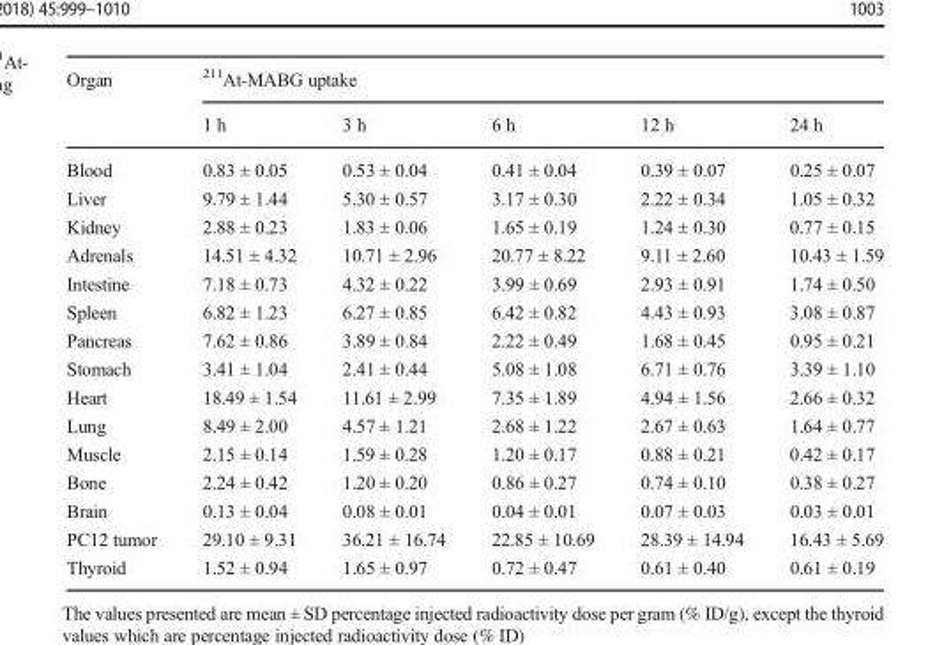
<table><thead><tr><td rowspan="2">Organ</td><td colspan="5"><sup>211</sup>At-MABG uptake</td></tr><tr><td>1 h</td><td>3 h</td><td>6 h</td><td>12 h</td><td>24 h</td></tr></thead><tbody><tr><td>Blood</td><td>0.83 ± 0.05</td><td>0.53 ± 0.04</td><td>0.41 ± 0.04</td><td>0.39 ± 0.07</td><td>0.25 ± 0.07</td></tr><tr><td>Liver</td><td>9.79 ± 1.44</td><td>5.30 ± 0.57</td><td>3.17 ± 0.30</td><td>2.22 ± 0.34</td><td>1.05 ± 0.32</td></tr><tr><td>Kidney</td><td>2.88 ± 0.23</td><td>1.83 ± 0.06</td><td>1.65 ± 0.19</td><td>1.24 ± 0.30</td><td>0.77 ± 0.15</td></tr><tr><td>Adrenals</td><td>14.51 ± 4.32</td><td>10.71 ± 2.96</td><td>20.77 ± 8.22</td><td>9.11 ± 2.60</td><td>10.43 ± 1.59</td></tr><tr><td>Intestine</td><td>7.18 ± 0.73</td><td>4.32 ± 0.22</td><td>3.99 ± 0.69</td><td>2.93 ± 0.91</td><td>1.74 ± 0.50</td></tr><tr><td>Spleen</td><td>6.82 ± 1.23</td><td>6.27 ± 0.85</td><td>6.42 ± 0.82</td><td>4.43 ± 0.93</td><td>3.08 ± 0.87</td></tr><tr><td>Pancreas</td><td>7.62 ± 0.86</td><td>3.89 ± 0.84</td><td>2.22 ± 0.49</td><td>1.68 ± 0.45</td><td>0.95 ± 0.21</td></tr><tr><td>Stomach</td><td>3.41 ± 1.04</td><td>2.41 ± 0.44</td><td>5.08 ± 1.08</td><td>6.71 ± 0.76</td><td>3.39 ± 1.10</td></tr><tr><td>Heart</td><td>18.49 ± 1.54</td><td>11.61 ± 2.99</td><td>7.35 ± 1.89</td><td>4.94 ± 1.56</td><td>2.66 ± 0.32</td></tr><tr><td>Lung</td><td>8.49 ± 2.00</td><td>4.57 ± 1.21</td><td>2.68 ± 1.22</td><td>2.67 ± 0.63</td><td>1.64 ± 0.77</td></tr><tr><td>Muscle</td><td>2.15 ± 0.14</td><td>1.59 ± 0.28</td><td>1.20 ± 0.17</td><td>0.88 ± 0.21</td><td>0.42 ± 0.17</td></tr><tr><td>Bone</td><td>2.24 ± 0.42</td><td>1.20 ± 0.20</td><td>0.86 ± 0.27</td><td>0.74 ± 0.10</td><td>0.38 ± 0.27</td></tr><tr><td>Brain</td><td>0.13 ± 0.04</td><td>0.08 ± 0.01</td><td>0.04 ± 0.01</td><td>0.07 ± 0.03</td><td>0.03 ± 0.01</td></tr><tr><td>PC12 tumor</td><td>29.10 ± 9.31</td><td>36.21 ± 16.74</td><td>22.85 ± 10.69</td><td>28.39 ± 14.94</td><td>16.43 ± 5.69</td></tr><tr><td>Thyroid</td><td>1.52 ± 0.94</td><td>1.65 ± 0.97</td><td>0.72 ± 0.47</td><td>0.61 ± 0.40</td><td>0.61 ± 0.19</td></tr></tbody></table>